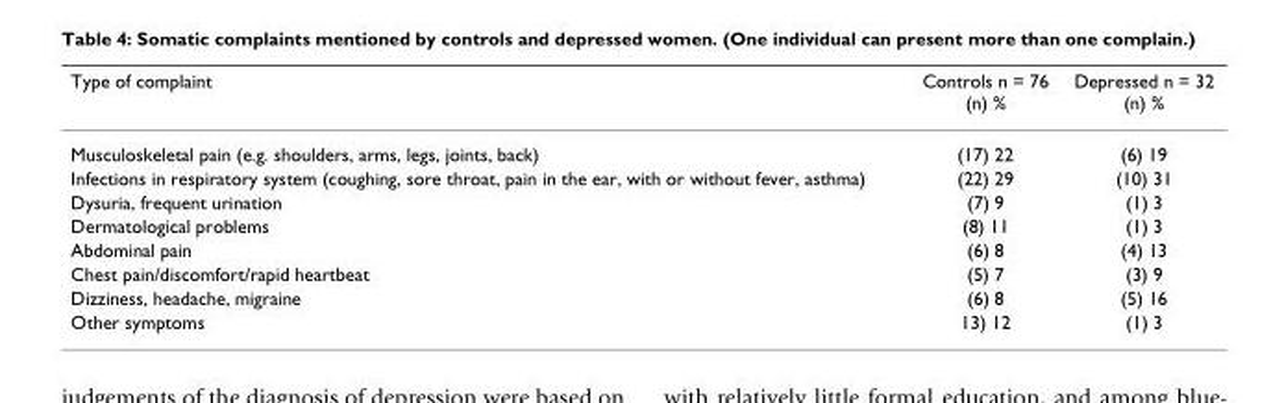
<table><thead><tr><td>Type of complaint</td><td>Controls n = 76 (n) %</td><td>Depressed n = 32 (n) %</td></tr></thead><tbody><tr><td>Musculoskeletal pain (e.g. shoulders, arms, legs, joints, back)</td><td>(17) 22</td><td>(6) 19</td></tr><tr><td>Infections in respiratory system (coughing, sore throat, pain in the ear, with or without fever, asthma)</td><td>(22) 29</td><td>(10) 31</td></tr><tr><td>Dysuria, frequent urination</td><td>(7) 9</td><td>(1) 3</td></tr><tr><td>Dermatological problems</td><td>(8) 11</td><td>(1) 3</td></tr><tr><td>Abdominal pain</td><td>(6) 8</td><td>(4) 13</td></tr><tr><td>Chest pain/discomfort/rapid heartbeat</td><td>(5) 7</td><td>(3) 9</td></tr><tr><td>Dizziness, headache, migraine</td><td>(6) 8</td><td>(5) 16</td></tr><tr><td>Other symptoms</td><td>13) 12</td><td>(1) 3</td></tr></tbody></table>